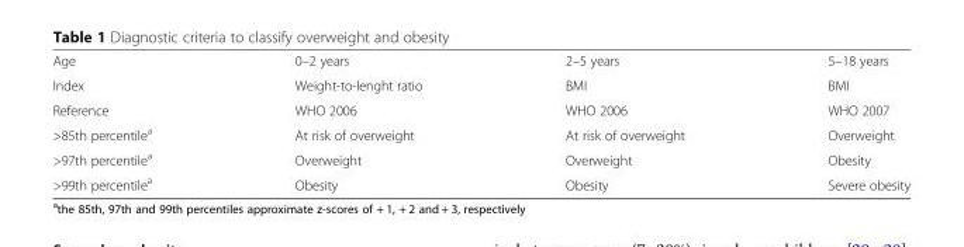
<table><tbody><tr><td>Age</td><td>0–2 years</td><td>2–5 years</td><td>5–18 years</td></tr><tr><td>Index</td><td>Weight-to-lenght ratio</td><td>BMI</td><td>BMI</td></tr><tr><td>Reference</td><td>WHO 2006</td><td>WHO 2006</td><td>WHO 2007</td></tr><tr><td>&gt;85th percentile<sup>a</sup></td><td>At risk of overweight</td><td>At risk of overweight</td><td>Overweight</td></tr><tr><td>&gt;97th percentile<sup>a</sup></td><td>Overweight</td><td>Overweight</td><td>Obesity</td></tr><tr><td>&gt;99th percentile<sup>a</sup></td><td>Obesity</td><td>Obesity</td><td>Severe obesity</td></tr></tbody></table>